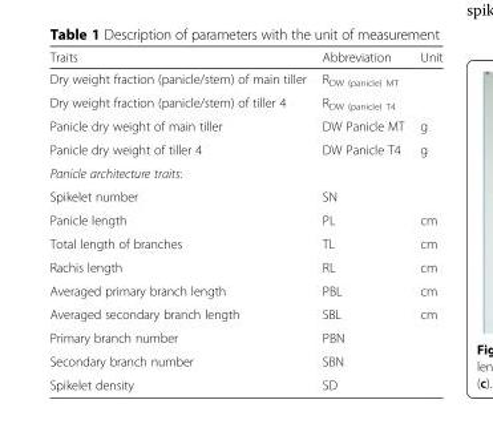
<table><thead><tr><td>Traits</td><td>Abbreviation</td><td>Unit</td></tr></thead><tbody><tr><td>Dry weight fraction (panicle/stem) of main tiller</td><td>R<sub>DW (panicle) MT</sub></td><td></td></tr><tr><td>Dry weight fraction (panicle/stem) of tiller 4</td><td>R<sub>DW (panicle) T4</sub></td><td></td></tr><tr><td>Panicle dry weight of main tiller</td><td>DW Panicle MT</td><td>g</td></tr><tr><td>Panicle dry weight of tiller 4</td><td>DW Panicle T4</td><td>g</td></tr><tr><td colspan="3">Panicle architecture traits:</td></tr><tr><td>Spikelet number</td><td>SN</td><td></td></tr><tr><td>Panicle length</td><td>PL</td><td>cm</td></tr><tr><td>Total length of branches</td><td>TL</td><td>cm</td></tr><tr><td>Rachis length</td><td>RL</td><td>cm</td></tr><tr><td>Averaged primary branch length</td><td>PBL</td><td>cm</td></tr><tr><td>Averaged secondary branch length</td><td>SBL</td><td>cm</td></tr><tr><td>Primary branch number</td><td>PBN</td><td></td></tr><tr><td>Secondary branch number</td><td>SBN</td><td></td></tr><tr><td>Spikelet density</td><td>SD</td><td></td></tr></tbody></table>